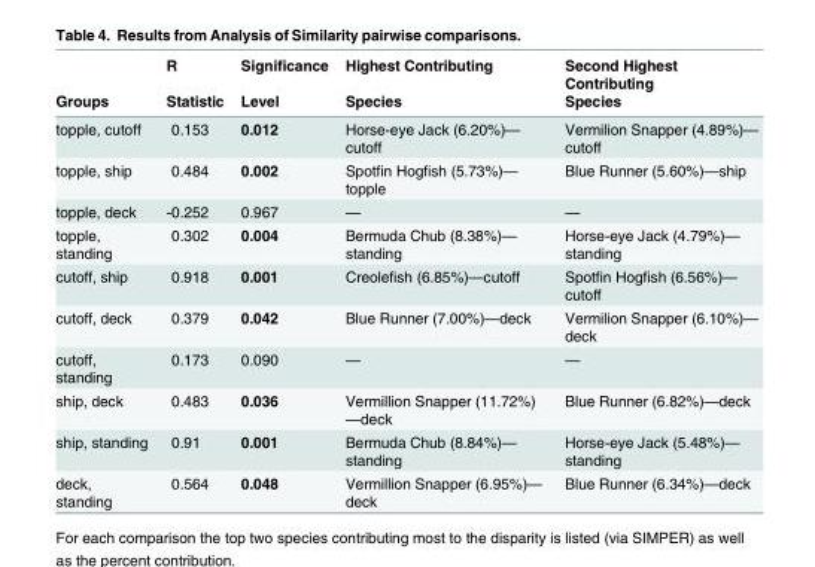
<table><thead><tr><td rowspan="2">Groups</td><td rowspan="2">R Statistic</td><td rowspan="2">Significance Level</td><td rowspan="2">Highest Contributing Species</td><td rowspan="2">Second Highest Contributing Species</td></tr><tr></tr></thead><tbody><tr><td>topple, cutoff</td><td>0.153</td><td>0.012</td><td>Horse-eye Jack (6.20%)— cutoff</td><td>Vermilion Snapper (4.89%)— cutoff</td></tr><tr><td>topple, ship</td><td>0.484</td><td>0.002</td><td>Spotfin Hogfish (5.73%)— topple</td><td>Blue Runner (5.60%)—ship</td></tr><tr><td>topple, deck</td><td>-0.252</td><td>0.967</td><td>—</td><td>—</td></tr><tr><td>topple, standing</td><td>0.302</td><td>0.004</td><td>Bermuda Chub (8.38%)— standing</td><td>Horse-eye Jack (4.79%)— standing</td></tr><tr><td>cutoff, ship</td><td>0.918</td><td>0.001</td><td>Creolefish (6.85%)—cutoff</td><td>Spotfin Hogfish (6.56%)— cutoff</td></tr><tr><td>cutoff, deck</td><td>0.379</td><td>0.042</td><td>Blue Runner (7.00%)—deck</td><td>Vermilion Snapper (6.10%)— deck</td></tr><tr><td>cutoff, standing</td><td>0.173</td><td>0.090</td><td>—</td><td>—</td></tr><tr><td>ship, deck</td><td>0.483</td><td>0.036</td><td>Vermillion Snapper (11.72%) —deck</td><td>Blue Runner (6.82%)—deck</td></tr><tr><td>ship, standing</td><td>0.91</td><td>0.001</td><td>Bermuda Chub (8.84%)— standing</td><td>Horse-eye Jack (5.48%)— standing</td></tr><tr><td>deck, standing</td><td>0.564</td><td>0.048</td><td>Vermillion Snapper (6.95%)— deck</td><td>Blue Runner (6.34%)—deck</td></tr></tbody></table>